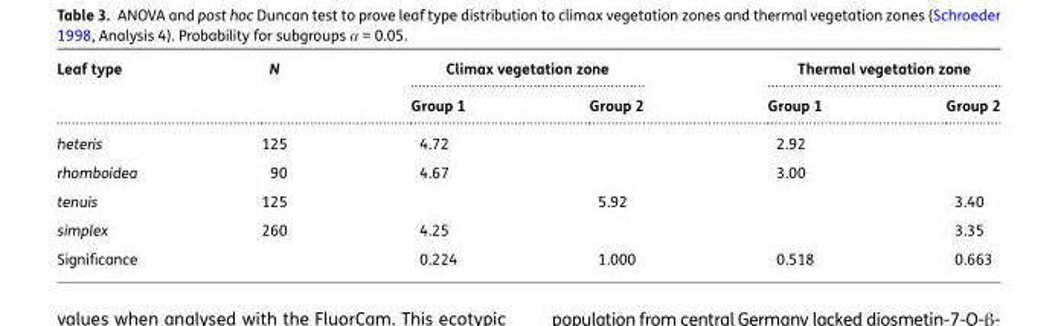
<table><thead><tr><td rowspan="2">Leaf type</td><td rowspan="2">N</td><td colspan="2">Climax vegetation zone</td><td colspan="2">Thermal vegetation zone</td></tr><tr><td>Group 1</td><td>Group 2</td><td>Group 1</td><td>Group 2</td></tr></thead><tbody><tr><td>heteris</td><td>125</td><td>4.72</td><td></td><td>2.92</td><td></td></tr><tr><td>rhomboidea</td><td>90</td><td>4.67</td><td></td><td>3.00</td><td></td></tr><tr><td>tenuis</td><td>125</td><td></td><td>5.92</td><td></td><td>3.40</td></tr><tr><td>simplex</td><td>260</td><td>4.25</td><td></td><td></td><td>3.35</td></tr><tr><td>Significance</td><td></td><td>0.224</td><td>1.000</td><td>0.518</td><td>0.663</td></tr></tbody></table>